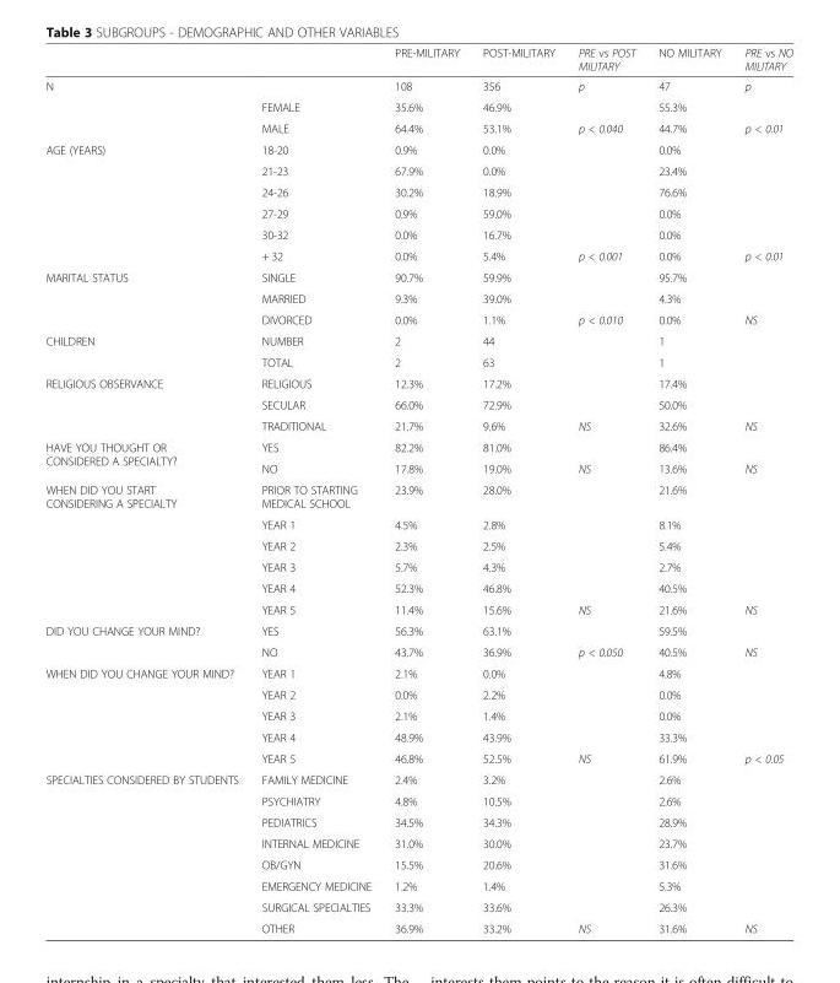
<table><thead><tr><td></td><td></td><td>PRE-MILITARY</td><td>POST-MILITARY</td><td>PRE vs POST MILITARY</td><td>NO MILITARY</td><td>PRE vs NO MILITARY</td></tr></thead><tbody><tr><td rowspan="3">N</td><td></td><td>108</td><td>356</td><td>p</td><td>47</td><td>p</td></tr><tr><td>FEMALE</td><td>35.6%</td><td>46.9%</td><td></td><td>55.3%</td><td></td></tr><tr><td>MALE</td><td>64.4%</td><td>53.1%</td><td>p &lt; 0.040</td><td>44.7%</td><td>p &lt; 0.01</td></tr><tr><td rowspan="6">AGE (YEARS)</td><td>18-20</td><td>0.9%</td><td>0.0%</td><td></td><td>0.0%</td><td></td></tr><tr><td>21-23</td><td>67.9%</td><td>0.0%</td><td></td><td>23.4%</td><td></td></tr><tr><td>24-26</td><td>30.2%</td><td>18.9%</td><td></td><td>76.6%</td><td></td></tr><tr><td>27-29</td><td>0.9%</td><td>59.0%</td><td></td><td>0.0%</td><td></td></tr><tr><td>30-32</td><td>0.0%</td><td>16.7%</td><td></td><td>0.0%</td><td></td></tr><tr><td>+ 32</td><td>0.0%</td><td>5.4%</td><td>p &lt; 0.001</td><td>0.0%</td><td>p &lt; 0.01</td></tr><tr><td rowspan="3">MARITAL STATUS</td><td>SINGLE</td><td>90.7%</td><td>59.9%</td><td></td><td>95.7%</td><td></td></tr><tr><td>MARRIED</td><td>9.3%</td><td>39.0%</td><td></td><td>4.3%</td><td></td></tr><tr><td>DIVORCED</td><td>0.0%</td><td>1.1%</td><td>p &lt; 0.010</td><td>0.0%</td><td>NS</td></tr><tr><td rowspan="2">CHILDREN</td><td>NUMBER</td><td>2</td><td>44</td><td></td><td>1</td><td></td></tr><tr><td>TOTAL</td><td>2</td><td>63</td><td></td><td>1</td><td></td></tr><tr><td rowspan="3">RELIGIOUS OBSERVANCE</td><td>RELIGIOUS</td><td>12.3%</td><td>17.2%</td><td></td><td>17.4%</td><td></td></tr><tr><td>SECULAR</td><td>66.0%</td><td>72.9%</td><td></td><td>50.0%</td><td></td></tr><tr><td>TRADITIONAL</td><td>21.7%</td><td>9.6%</td><td>NS</td><td>32.6%</td><td>NS</td></tr><tr><td rowspan="2">HAVE YOU THOUGHT OR CONSIDERED A SPECIALTY?</td><td>YES</td><td>82.2%</td><td>81.0%</td><td></td><td>86.4%</td><td></td></tr><tr><td>NO</td><td>17.8%</td><td>19.0%</td><td>NS</td><td>13.6%</td><td>NS</td></tr><tr><td rowspan="6">WHEN DID YOU START CONSIDERING A SPECIALTY</td><td>PRIOR TO STARTING MEDICAL SCHOOL</td><td>23.9%</td><td>28.0%</td><td></td><td>21.6%</td><td></td></tr><tr><td>YEAR 1</td><td>4.5%</td><td>2.8%</td><td></td><td>8.1%</td><td></td></tr><tr><td>YEAR 2</td><td>2.3%</td><td>2.5%</td><td></td><td>5.4%</td><td></td></tr><tr><td>YEAR 3</td><td>5.7%</td><td>4.3%</td><td></td><td>2.7%</td><td></td></tr><tr><td>YEAR 4</td><td>52.3%</td><td>46.8%</td><td></td><td>40.5%</td><td></td></tr><tr><td>YEAR 5</td><td>11.4%</td><td>15.6%</td><td>NS</td><td>21.6%</td><td>NS</td></tr><tr><td rowspan="2">DID YOU CHANGE YOUR MIND?</td><td>YES</td><td>56.3%</td><td>63.1%</td><td></td><td>59.5%</td><td></td></tr><tr><td>NO</td><td>43.7%</td><td>36.9%</td><td>p &lt; 0.050</td><td>40.5%</td><td>NS</td></tr><tr><td rowspan="5">WHEN DID YOU CHANGE YOUR MIND?</td><td>YEAR 1</td><td>2.1%</td><td>0.0%</td><td></td><td>4.8%</td><td></td></tr><tr><td>YEAR 2</td><td>0.0%</td><td>2.2%</td><td></td><td>0.0%</td><td></td></tr><tr><td>YEAR 3</td><td>2.1%</td><td>1.4%</td><td></td><td>0.0%</td><td></td></tr><tr><td>YEAR 4</td><td>48.9%</td><td>43.9%</td><td></td><td>33.3%</td><td></td></tr><tr><td>YEAR 5</td><td>46.8%</td><td>52.5%</td><td>NS</td><td>61.9%</td><td>p &lt; 0.05</td></tr><tr><td rowspan="8">SPECIALTIES CONSIDERED BY STUDENTS</td><td>FAMILY MEDICINE</td><td>2.4%</td><td>3.2%</td><td></td><td>2.6%</td><td></td></tr><tr><td>PSYCHIATRY</td><td>4.8%</td><td>10.5%</td><td></td><td>2.6%</td><td></td></tr><tr><td>PEDIATRICS</td><td>34.5%</td><td>34.3%</td><td></td><td>28.9%</td><td></td></tr><tr><td>INTERNAL MEDICINE</td><td>31.0%</td><td>30.0%</td><td></td><td>23.7%</td><td></td></tr><tr><td>OB/GYN</td><td>15.5%</td><td>20.6%</td><td></td><td>31.6%</td><td></td></tr><tr><td>EMERGENCY MEDICINE</td><td>1.2%</td><td>1.4%</td><td></td><td>5.3%</td><td></td></tr><tr><td>SURGICAL SPECIALTIES</td><td>33.3%</td><td>33.6%</td><td></td><td>26.3%</td><td></td></tr><tr><td>OTHER</td><td>36.9%</td><td>33.2%</td><td>NS</td><td>31.6%</td><td>NS</td></tr></tbody></table>